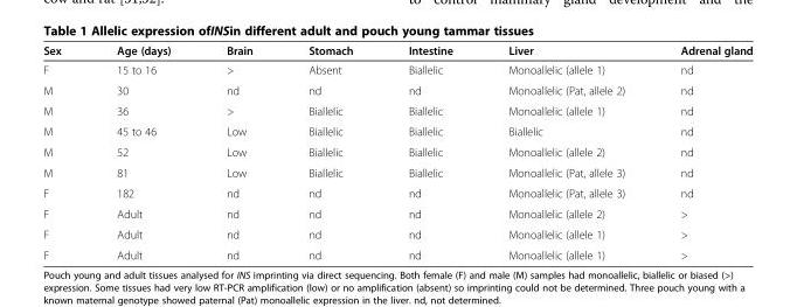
<table><thead><tr><td>Sex</td><td>Age (days)</td><td>Brain</td><td>Stomach</td><td>Intestine</td><td>Liver</td><td>Adrenal gland</td></tr></thead><tbody><tr><td>F</td><td>15 to 16</td><td>&gt;</td><td>Absent</td><td>Biallelic</td><td>Monoallelic (allele 1)</td><td>nd</td></tr><tr><td>M</td><td>30</td><td>nd</td><td>nd</td><td>nd</td><td>Monoallelic (Pat, allele 2)</td><td>nd</td></tr><tr><td>M</td><td>36</td><td>&gt;</td><td>Biallelic</td><td>Biallelic</td><td>Monoallelic (allele 1)</td><td>nd</td></tr><tr><td>M</td><td>45 to 46</td><td>Low</td><td>Biallelic</td><td>Biallelic</td><td>Biallelic</td><td>nd</td></tr><tr><td>M</td><td>52</td><td>Low</td><td>Biallelic</td><td>Biallelic</td><td>Monoallelic (allele 2)</td><td>nd</td></tr><tr><td>M</td><td>81</td><td>Low</td><td>Biallelic</td><td>Biallelic</td><td>Monoallelic (Pat, allele 3)</td><td>nd</td></tr><tr><td>F</td><td>182</td><td>nd</td><td>nd</td><td>nd</td><td>Monoallelic (Pat, allele 3)</td><td>nd</td></tr><tr><td>F</td><td>Adult</td><td>nd</td><td>nd</td><td>nd</td><td>Monoallelic (allele 2)</td><td>&gt;</td></tr><tr><td>F</td><td>Adult</td><td>nd</td><td>nd</td><td>nd</td><td>Monoallelic (allele 1)</td><td>&gt;</td></tr><tr><td>F</td><td>Adult</td><td>nd</td><td>nd</td><td>nd</td><td>Monoallelic (allele 1)</td><td>&gt;</td></tr></tbody></table>